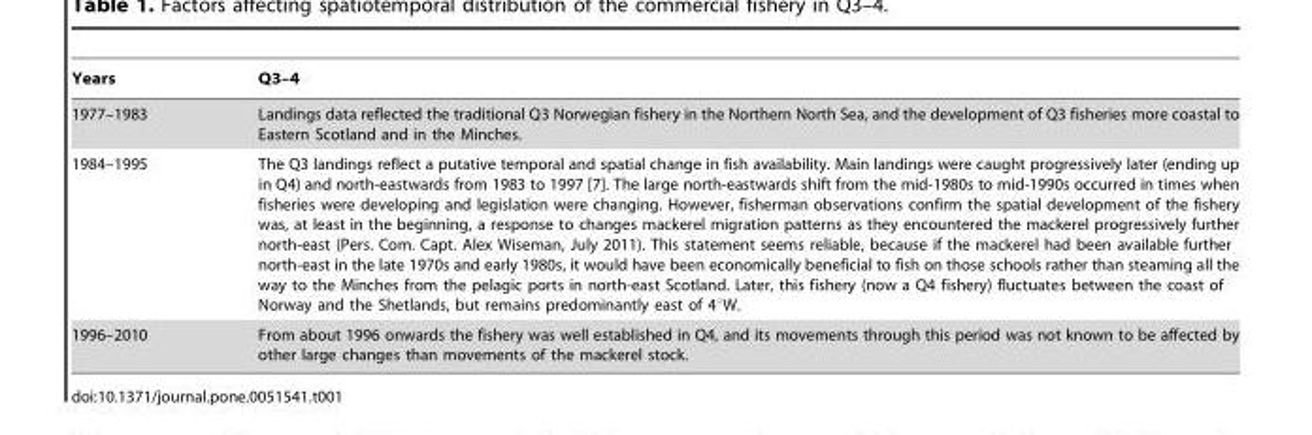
<table><thead><tr><td>Years</td><td>Q3–4</td></tr></thead><tbody><tr><td>1977–1983</td><td>Landings data reflected the traditional Q3 Norwegian fishery in the Northern North Sea, and the development of Q3 fisheries more coastal to Eastern Scotland and in the Minches.</td></tr><tr><td>1984–1995</td><td>The Q3 landings reflect a putative temporal and spatial change in fish availability. Main landings were caught progressively later (ending up in Q4) and north-eastwards from 1983 to 1997 [7]. The large north-eastwards shift from the mid-1980s to mid-1990s occurred in times when fisheries were developing and legislation were changing. However, fisherman observations confirm the spatial development of the fishery was, at least in the beginning, a response to changes mackerel migration patterns as they encountered the mackerel progressively further north-east (Pers. Com. Capt. Alex Wiseman, July 2011). This statement seems reliable, because if the mackerel had been available further north-east in the late 1970s and early 1980s, it would have been economically beneficial to fish on those schools rather than steaming all the way to the Minches from the pelagic ports in north-east Scotland. Later, this fishery (now a Q4 fishery) fluctuates between the coast of Norway and the Shetlands, but remains predominantly east of 4°W.</td></tr><tr><td>1996–2010</td><td>From about 1996 onwards the fishery was well established in Q4, and its movements through this period was not known to be affected by other large changes than movements of the mackerel stock.</td></tr></tbody></table>